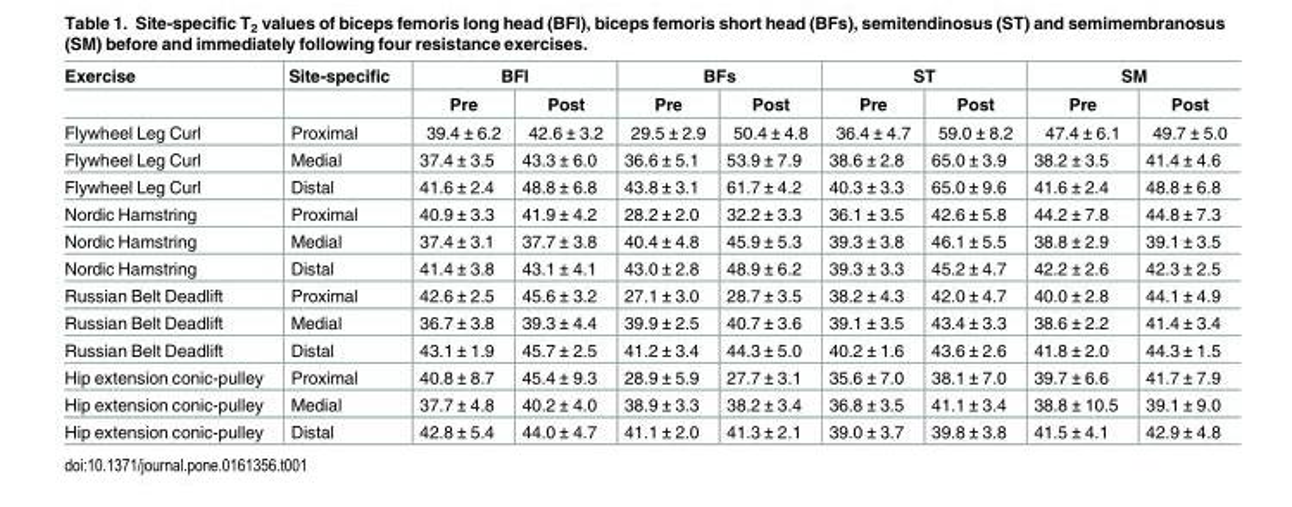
<table><thead><tr><td rowspan="2">Exercise</td><td rowspan="2">Site-specific</td><td colspan="2">BFl</td><td colspan="2">BFs</td><td colspan="2">ST</td><td colspan="2">SM</td></tr><tr><td>Pre</td><td>Post</td><td>Pre</td><td>Post</td><td>Pre</td><td>Post</td><td>Pre</td><td>Post</td></tr></thead><tbody><tr><td>Flywheel Leg Curl</td><td>Proximal</td><td>39.4 ± 6.2</td><td>42.6 ± 3.2</td><td>29.5 ± 2.9</td><td>50.4 ± 4.8</td><td>36.4 ± 4.7</td><td>59.0 ± 8.2</td><td>47.4 ± 6.1</td><td>49.7 ± 5.0</td></tr><tr><td>Flywheel Leg Curl</td><td>Medial</td><td>37.4 ± 3.5</td><td>43.3 ± 6.0</td><td>36.6 ± 5.1</td><td>53.9 ± 7.9</td><td>38.6 ± 2.8</td><td>65.0 ± 3.9</td><td>38.2 ± 3.5</td><td>41.4 ± 4.6</td></tr><tr><td>Flywheel Leg Curl</td><td>Distal</td><td>41.6 ± 2.4</td><td>48.8 ± 6.8</td><td>43.8 ± 3.1</td><td>61.7 ± 4.2</td><td>40.3 ± 3.3</td><td>65.0 ± 9.6</td><td>41.6 ± 2.4</td><td>48.8 ± 6.8</td></tr><tr><td>Nordic Hamstring</td><td>Proximal</td><td>40.9 ± 3.3</td><td>41.9 ± 4.2</td><td>28.2 ± 2.0</td><td>32.2 ± 3.3</td><td>36.1 ± 3.5</td><td>42.6 ± 5.8</td><td>44.2 ± 7.8</td><td>44.8 ± 7.3</td></tr><tr><td>Nordic Hamstring</td><td>Medial</td><td>37.4 ± 3.1</td><td>37.7 ± 3.8</td><td>40.4 ± 4.8</td><td>45.9 ± 5.3</td><td>39.3 ± 3.8</td><td>46.1 ± 5.5</td><td>38.8 ± 2.9</td><td>39.1 ± 3.5</td></tr><tr><td>Nordic Hamstring</td><td>Distal</td><td>41.4 ± 3.8</td><td>43.1 ± 4.1</td><td>43.0 ± 2.8</td><td>48.9 ± 6.2</td><td>39.3 ± 3.3</td><td>45.2 ± 4.7</td><td>42.2 ± 2.6</td><td>42.3 ± 2.5</td></tr><tr><td>Russian Belt Deadlift</td><td>Proximal</td><td>42.6 ± 2.5</td><td>45.6 ± 3.2</td><td>27.1 ± 3.0</td><td>28.7 ± 3.5</td><td>38.2 ± 4.3</td><td>42.0 ± 4.7</td><td>40.0 ± 2.8</td><td>44.1 ± 4.9</td></tr><tr><td>Russian Belt Deadlift</td><td>Medial</td><td>36.7 ± 3.8</td><td>39.3 ± 4.4</td><td>39.9 ± 2.5</td><td>40.7 ± 3.6</td><td>39.1 ± 3.5</td><td>43.4 ± 3.3</td><td>38.6 ± 2.2</td><td>41.4 ± 3.4</td></tr><tr><td>Russian Belt Deadlift</td><td>Distal</td><td>43.1 ± 1.9</td><td>45.7 ± 2.5</td><td>41.2 ± 3.4</td><td>44.3 ± 5.0</td><td>40.2 ± 1.6</td><td>43.6 ± 2.6</td><td>41.8 ± 2.0</td><td>44.3 ± 1.5</td></tr><tr><td>Hip extension conic-pulley</td><td>Proximal</td><td>40.8 ± 8.7</td><td>45.4 ± 9.3</td><td>28.9 ± 5.9</td><td>27.7 ± 3.1</td><td>35.6 ± 7.0</td><td>38.1 ± 7.0</td><td>39.7 ± 6.6</td><td>41.7 ± 7.9</td></tr><tr><td>Hip extension conic-pulley</td><td>Medial</td><td>37.7 ± 4.8</td><td>40.2 ± 4.0</td><td>38.9 ± 3.3</td><td>38.2 ± 3.4</td><td>36.8 ± 3.5</td><td>41.1 ± 3.4</td><td>38.8 ± 10.5</td><td>39.1 ± 9.0</td></tr><tr><td>Hip extension conic-pulley</td><td>Distal</td><td>42.8 ± 5.4</td><td>44.0 ± 4.7</td><td>41.1 ± 2.0</td><td>41.3 ± 2.1</td><td>39.0 ± 3.7</td><td>39.8 ± 3.8</td><td>41.5 ± 4.1</td><td>42.9 ± 4.8</td></tr></tbody></table>